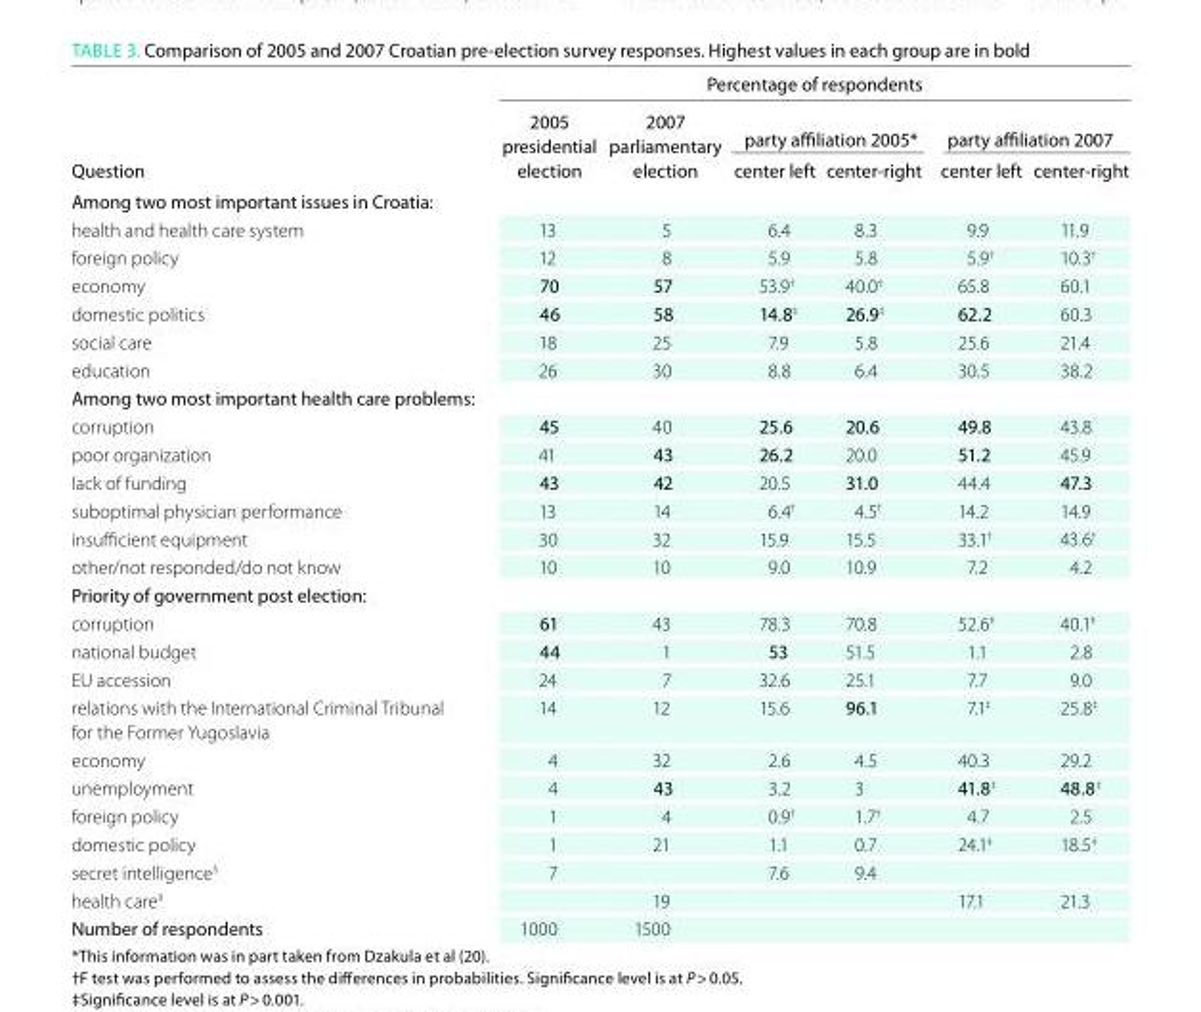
<table><thead><tr><td rowspan="3">Question</td><td colspan="6">Percentage of respondents</td></tr><tr><td rowspan="2">2005 presidential election</td><td rowspan="2">2007 parliamentary election</td><td colspan="2">party affiliation 2005*</td><td colspan="2">party affiliation 2007</td></tr><tr><td>center left</td><td>center-right</td><td>center left</td><td>center-right</td></tr></thead><tbody><tr><td colspan="7">Among two most important issues in Croatia:</td></tr><tr><td>health and health care system</td><td>13</td><td>5</td><td>6.4</td><td>8.3</td><td>9.9</td><td>11.9</td></tr><tr><td>foreign policy</td><td>12</td><td>8</td><td>5.9</td><td>5.8</td><td>5.9<sup>†</sup></td><td>10.3<sup>†</sup></td></tr><tr><td>economy</td><td>70</td><td>57</td><td>53.9<sup>†</sup></td><td>40.0<sup>†</sup></td><td>65.8</td><td>60.1</td></tr><tr><td>domestic politics</td><td>46</td><td>58</td><td>14.8<sup>‡</sup></td><td>26.9<sup>‡</sup></td><td>62.2</td><td>60.3</td></tr><tr><td>social care</td><td>18</td><td>25</td><td>7.9</td><td>5.8</td><td>25.6</td><td>21.4</td></tr><tr><td>education</td><td>26</td><td>30</td><td>8.8</td><td>6.4</td><td>30.5</td><td>38.2</td></tr><tr><td colspan="7">Among two most important health care problems:</td></tr><tr><td>corruption</td><td>45</td><td>40</td><td>25.6</td><td>20.6</td><td>49.8</td><td>43.8</td></tr><tr><td>poor organization</td><td>41</td><td>43</td><td>26.2</td><td>20.0</td><td>51.2</td><td>45.9</td></tr><tr><td>lack of funding</td><td>43</td><td>42</td><td>20.5</td><td>31.0</td><td>44.4</td><td>47.3</td></tr><tr><td>suboptimal physician performance</td><td>13</td><td>14</td><td>6.4<sup>†</sup></td><td>4.5<sup>†</sup></td><td>14.2</td><td>14.9</td></tr><tr><td>insufficient equipment</td><td>30</td><td>32</td><td>15.9</td><td>15.5</td><td>33.1<sup>†</sup></td><td>43.6<sup>†</sup></td></tr><tr><td>other/not responded/do not know</td><td>10</td><td>10</td><td>9.0</td><td>10.9</td><td>7.2</td><td>4.2</td></tr><tr><td colspan="7">Priority of government post election:</td></tr><tr><td>corruption</td><td>61</td><td>43</td><td>78.3</td><td>70.8</td><td>52.6<sup>‡</sup></td><td>40.1<sup>‡</sup></td></tr><tr><td>national budget</td><td>44</td><td>1</td><td>53</td><td>51.5</td><td>1.1</td><td>2.8</td></tr><tr><td>EU accession</td><td>24</td><td>7</td><td>32.6</td><td>25.1</td><td>7.7</td><td>9.0</td></tr><tr><td>relations with the International Criminal Tribunal for the Former Yugoslavia</td><td>14</td><td>12</td><td>15.6</td><td>96.1</td><td>7.1<sup>‡</sup></td><td>25.8<sup>‡</sup></td></tr><tr><td>economy</td><td>4</td><td>32</td><td>2.6</td><td>4.5</td><td>40.3</td><td>29.2</td></tr><tr><td>unemployment</td><td>4</td><td>43</td><td>3.2</td><td>3</td><td>41.8<sup>‡</sup></td><td>48.8<sup>‡</sup></td></tr><tr><td>foreign policy</td><td>1</td><td>4</td><td>0.9<sup>†</sup></td><td>1.7†</td><td>4.7</td><td>2.5</td></tr><tr><td>domestic policy</td><td>1</td><td>21</td><td>1.1</td><td>0.7</td><td>24.1<sup>‡</sup></td><td>18.5<sup>‡</sup></td></tr><tr><td>secret intelligence<sup>§</sup></td><td>7</td><td></td><td>7.6</td><td>9.4</td><td></td><td></td></tr><tr><td>health careII</td><td></td><td>19</td><td></td><td></td><td>17.1</td><td>21.3</td></tr><tr><td>Number of respondents</td><td>1000</td><td>1500</td><td></td><td></td><td></td><td></td></tr></tbody></table>